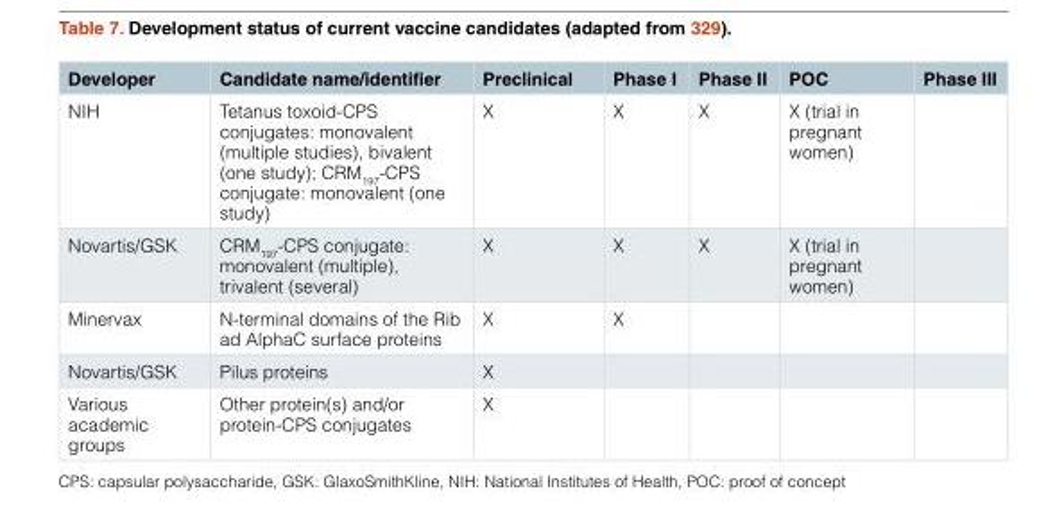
<table><thead><tr><td>Developer</td><td>Candidate name/identifier</td><td>Preclinical</td><td>Phase I</td><td>Phase II</td><td>POC</td><td>Phase III</td></tr></thead><tbody><tr><td>NIH</td><td>Tetanus toxoid-CPS conjugates: monovalent (multiple studies), bivalent (one study); CRM<sub>197</sub>-CPS conjugate: monovalent (one study)</td><td>X</td><td>X</td><td>X</td><td>X (trial in pregnant women)</td><td></td></tr><tr><td>Novartis/GSK</td><td>CRM<sub>197</sub>-CPS conjugate: monovalent (multiple), trivalent (several)</td><td>X</td><td>X</td><td>X</td><td>X (trial in pregnant women)</td><td></td></tr><tr><td>Minervax</td><td>N-terminal domains of the Rib ad AlphaC surface proteins</td><td>X</td><td>X</td><td></td><td></td><td></td></tr><tr><td>Novartis/GSK</td><td>Pilus proteins</td><td>X</td><td></td><td></td><td></td><td></td></tr><tr><td>Various academic groups</td><td>Other protein(s) and/or protein-CPS conjugates</td><td>X</td><td></td><td></td><td></td><td></td></tr></tbody></table>